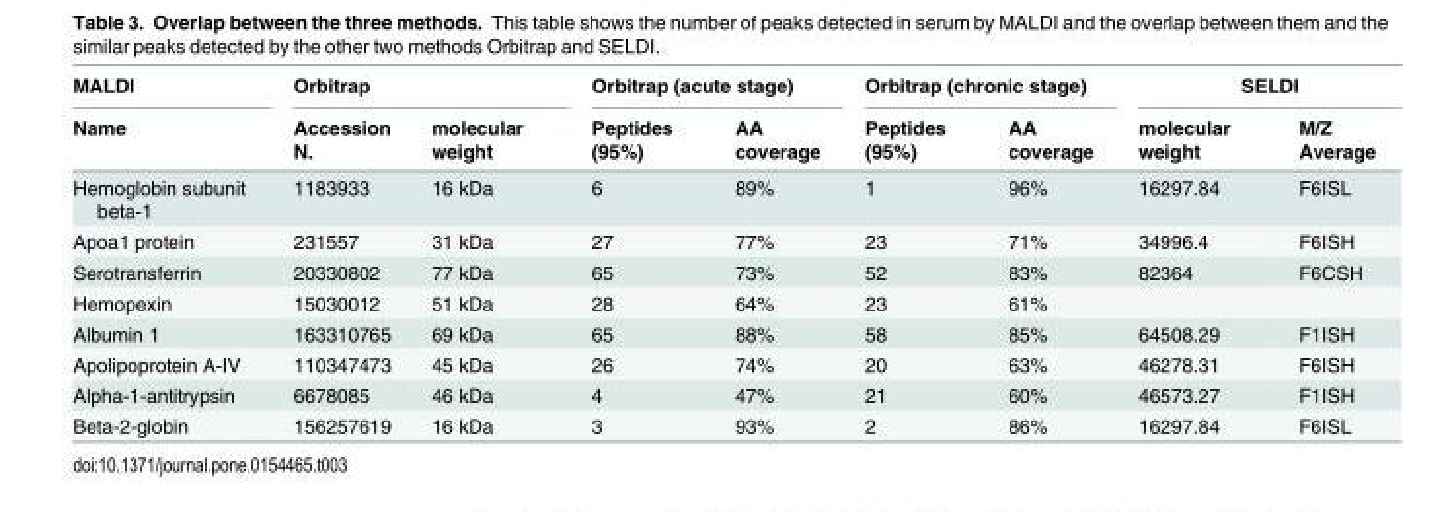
<table><thead><tr><td rowspan="2">MALDI Name</td><td colspan="2">Orbitrap</td><td colspan="2">Orbitrap (acute stage)</td><td colspan="2">Orbitrap (chronic stage)</td><td colspan="2">SELDI</td></tr><tr><td>Accession N.</td><td>molecular weight</td><td>Peptides (95%)</td><td>AA coverage</td><td>Peptides (95%)</td><td>AA coverage</td><td>molecular weight</td><td>M/Z Average</td></tr></thead><tbody><tr><td>Hemoglobin subunit beta-1</td><td>1183933</td><td>16 kDa</td><td>6</td><td>89%</td><td>1</td><td>96%</td><td>16297.84</td><td>F6ISL</td></tr><tr><td>Apoa1 protein</td><td>231557</td><td>31 kDa</td><td>27</td><td>77%</td><td>23</td><td>71%</td><td>34996.4</td><td>F6ISH</td></tr><tr><td>Serotransferrin</td><td>20330802</td><td>77 kDa</td><td>65</td><td>73%</td><td>52</td><td>83%</td><td>82364</td><td>F6CSH</td></tr><tr><td>Hemopexin</td><td>15030012</td><td>51 kDa</td><td>28</td><td>64%</td><td>23</td><td>61%</td><td></td><td></td></tr><tr><td>Albumin 1</td><td>163310765</td><td>69 kDa</td><td>65</td><td>88%</td><td>58</td><td>85%</td><td>64508.29</td><td>F1ISH</td></tr><tr><td>Apolipoprotein A-IV</td><td>110347473</td><td>45 kDa</td><td>26</td><td>74%</td><td>20</td><td>63%</td><td>46278.31</td><td>F6ISH</td></tr><tr><td>Alpha-1-antitrypsin</td><td>6678085</td><td>46 kDa</td><td>4</td><td>47%</td><td>21</td><td>60%</td><td>46573.27</td><td>F1ISH</td></tr><tr><td>Beta-2-globin</td><td>156257619</td><td>16 kDa</td><td>3</td><td>93%</td><td>2</td><td>86%</td><td>16297.84</td><td>F6ISL</td></tr></tbody></table>